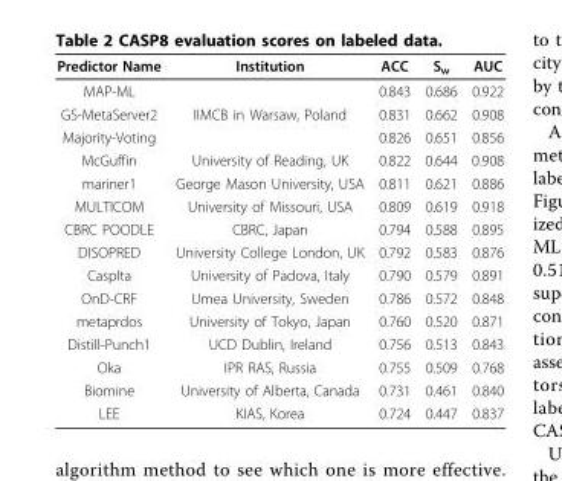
<table><thead><tr><td>Predictor Name</td><td>Institution</td><td>ACC</td><td>S<sub>w</sub></td><td>AUC</td></tr></thead><tbody><tr><td>MAP-ML</td><td></td><td>0.843</td><td>0.686</td><td>0.922</td></tr><tr><td>GS-MetaServer2</td><td>IIMCB in Warsaw, Poland</td><td>0.831</td><td>0.662</td><td>0.908</td></tr><tr><td>Majority-Voting</td><td></td><td>0.826</td><td>0.651</td><td>0.856</td></tr><tr><td>McGuffin</td><td>University of Reading, UK</td><td>0.822</td><td>0.644</td><td>0.908</td></tr><tr><td>mariner1</td><td>George Mason University, USA</td><td>0.811</td><td>0.621</td><td>0.886</td></tr><tr><td>MULTICOM</td><td>University of Missouri, USA</td><td>0.809</td><td>0.619</td><td>0.918</td></tr><tr><td>CBRC POODLE</td><td>CBRC, Japan</td><td>0.794</td><td>0.588</td><td>0.895</td></tr><tr><td>DISOPRED</td><td>University College London, UK</td><td>0.792</td><td>0.583</td><td>0.876</td></tr><tr><td>CaspIta</td><td>University of Padova, Italy</td><td>0.790</td><td>0.579</td><td>0.891</td></tr><tr><td>OnD-CRF</td><td>Umea University, Sweden</td><td>0.786</td><td>0.572</td><td>0.848</td></tr><tr><td>metaprdos</td><td>University of Tokyo, Japan</td><td>0.760</td><td>0.520</td><td>0.871</td></tr><tr><td>Distill-Punch1</td><td>UCD Dublin, Ireland</td><td>0.756</td><td>0.513</td><td>0.843</td></tr><tr><td>Oka</td><td>IPR RAS, Russia</td><td>0.755</td><td>0.509</td><td>0.768</td></tr><tr><td>Biomine</td><td>University of Alberta, Canada</td><td>0.731</td><td>0.461</td><td>0.840</td></tr><tr><td>LEE</td><td>KIAS, Korea</td><td>0.724</td><td>0.447</td><td>0.837</td></tr></tbody></table>